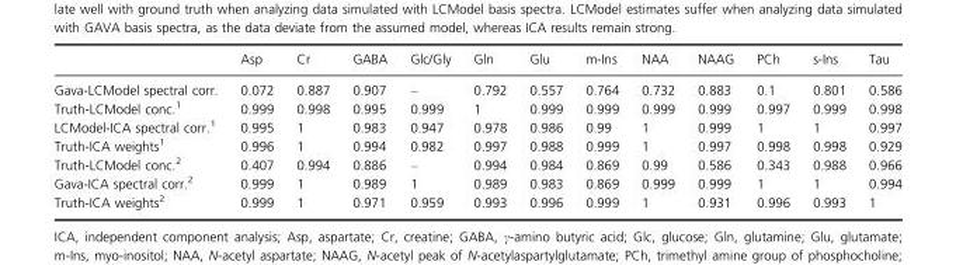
<table><thead><tr><td></td><td>Asp</td><td>Cr</td><td>GABA</td><td>Glc/Gly</td><td>Gln</td><td>Glu</td><td>m-Ins</td><td>NAA</td><td>NAAG</td><td>PCh</td><td>s-Ins</td><td>Tau</td></tr></thead><tbody><tr><td>Gava-LCModel spectral corr.</td><td>0.072</td><td>0.887</td><td>0.907</td><td>–</td><td>0.792</td><td>0.557</td><td>0.764</td><td>0.732</td><td>0.883</td><td>0.1</td><td>0.801</td><td>0.586</td></tr><tr><td>Truth-LCModel conc.<sup>1</sup></td><td>0.999</td><td>0.998</td><td>0.995</td><td>0.999</td><td>1</td><td>0.999</td><td>0.999</td><td>0.999</td><td>0.999</td><td>0.997</td><td>0.999</td><td>0.998</td></tr><tr><td>LCModel-ICA spectral corr.<sup>1</sup></td><td>0.995</td><td>1</td><td>0.983</td><td>0.947</td><td>0.978</td><td>0.986</td><td>0.99</td><td>1</td><td>0.999</td><td>1</td><td>1</td><td>0.997</td></tr><tr><td>Truth-ICA weights<sup>1</sup></td><td>0.996</td><td>1</td><td>0.994</td><td>0.982</td><td>0.997</td><td>0.988</td><td>0.999</td><td>1</td><td>0.997</td><td>0.998</td><td>0.998</td><td>0.929</td></tr><tr><td>Truth-LCModel conc.<sup>2</sup></td><td>0.407</td><td>0.994</td><td>0.886</td><td>–</td><td>0.994</td><td>0.984</td><td>0.869</td><td>0.99</td><td>0.586</td><td>0.343</td><td>0.988</td><td>0.966</td></tr><tr><td>Gava-ICA spectral corr.<sup>2</sup></td><td>0.999</td><td>1</td><td>0.989</td><td>1</td><td>0.989</td><td>0.983</td><td>0.869</td><td>0.999</td><td>0.999</td><td>1</td><td>1</td><td>0.994</td></tr><tr><td>Truth-ICA weights<sup>2</sup></td><td>0.999</td><td>1</td><td>0.971</td><td>0.959</td><td>0.993</td><td>0.996</td><td>0.999</td><td>1</td><td>0.931</td><td>0.996</td><td>0.993</td><td>1</td></tr></tbody></table>